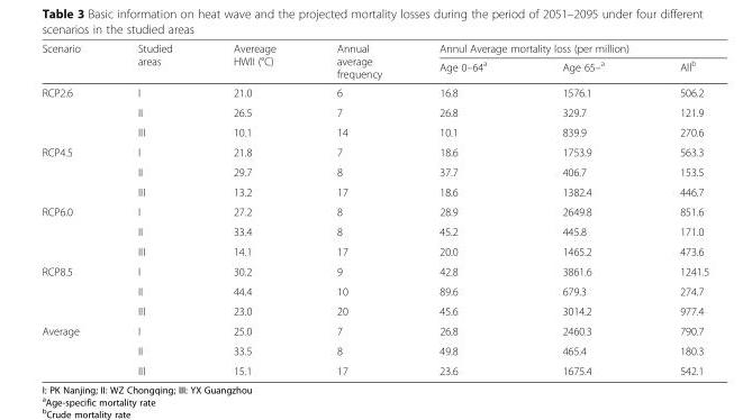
<table><thead><tr><td rowspan="2">Scenario</td><td rowspan="2">Studied areas</td><td rowspan="2">Avereage HWII (°C)</td><td rowspan="2">Annual average frequency</td><td colspan="3">Annul Average mortality loss (per million)</td></tr><tr><td>Age 0–64<sup>a</sup></td><td>Age 65–<sup>a</sup></td><td>All<sup>b</sup></td></tr></thead><tbody><tr><td rowspan="3">RCP2.6</td><td>I</td><td>21.0</td><td>6</td><td>16.8</td><td>1576.1</td><td>506.2</td></tr><tr><td>II</td><td>26.5</td><td>7</td><td>26.8</td><td>329.7</td><td>121.9</td></tr><tr><td>III</td><td>10.1</td><td>14</td><td>10.1</td><td>839.9</td><td>270.6</td></tr><tr><td rowspan="3">RCP4.5</td><td>I</td><td>21.8</td><td>7</td><td>18.6</td><td>1753.9</td><td>563.3</td></tr><tr><td>II</td><td>29.7</td><td>8</td><td>37.7</td><td>406.7</td><td>153.5</td></tr><tr><td>III</td><td>13.2</td><td>17</td><td>18.6</td><td>1382.4</td><td>446.7</td></tr><tr><td rowspan="3">RCP6.0</td><td>I</td><td>27.2</td><td>8</td><td>28.9</td><td>2649.8</td><td>851.6</td></tr><tr><td>II</td><td>33.4</td><td>8</td><td>45.2</td><td>445.8</td><td>171.0</td></tr><tr><td>III</td><td>14.1</td><td>17</td><td>20.0</td><td>1465.2</td><td>473.6</td></tr><tr><td rowspan="3">RCP8.5</td><td>I</td><td>30.2</td><td>9</td><td>42.8</td><td>3861.6</td><td>1241.5</td></tr><tr><td>II</td><td>44.4</td><td>10</td><td>89.6</td><td>679.3</td><td>274.7</td></tr><tr><td>III</td><td>23.0</td><td>20</td><td>45.6</td><td>3014.2</td><td>977.4</td></tr><tr><td rowspan="3">Average</td><td>I</td><td>25.0</td><td>7</td><td>26.8</td><td>2460.3</td><td>790.7</td></tr><tr><td>II</td><td>33.5</td><td>8</td><td>49.8</td><td>465.4</td><td>180.3</td></tr><tr><td>III</td><td>15.1</td><td>17</td><td>23.6</td><td>1675.4</td><td>542.1</td></tr></tbody></table>